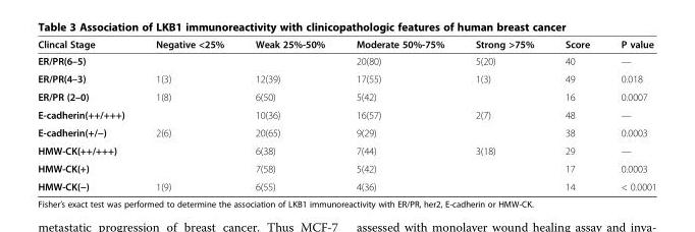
<table><thead><tr><td>Clincal Stage</td><td>Negative &lt;25%</td><td>Weak 25%-50%</td><td>Moderate 50%-75%</td><td>Strong &gt;75%</td><td>Score</td><td>P value</td></tr></thead><tbody><tr><td>ER/PR(6–5)</td><td></td><td></td><td>20(80)</td><td>5(20)</td><td>40</td><td>—</td></tr><tr><td>ER/PR(4–3)</td><td>1(3)</td><td>12(39)</td><td>17(55)</td><td>1(3)</td><td>49</td><td>0.018</td></tr><tr><td>ER/PR (2–0)</td><td>1(8)</td><td>6(50)</td><td>5(42)</td><td></td><td>16</td><td>0.0007</td></tr><tr><td>E-cadherin(++/+++)</td><td></td><td>10(36)</td><td>16(57)</td><td>2(7)</td><td>48</td><td>—</td></tr><tr><td>E-cadherin(+/−)</td><td>2(6)</td><td>20(65)</td><td>9(29)</td><td></td><td>38</td><td>0.0003</td></tr><tr><td>HMW-CK(++/+++)</td><td></td><td>6(38)</td><td>7(44)</td><td>3(18)</td><td>29</td><td>—</td></tr><tr><td>HMW-CK(+)</td><td></td><td>7(58)</td><td>5(42)</td><td></td><td>17</td><td>0.0003</td></tr><tr><td>HMW-CK(−)</td><td>1(9)</td><td>6(55)</td><td>4(36)</td><td></td><td>14</td><td>&lt; 0.0001</td></tr></tbody></table>